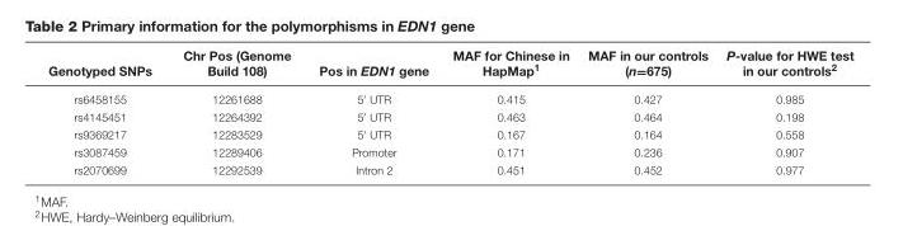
<table><thead><tr><td>Genotyped SNPs</td><td>Chr Pos (Genome Build 108)</td><td>Pos in EDN1 gene</td><td>MAF for Chinese in HapMap<sup>1</sup></td><td>MAF in our controls (n=675)</td><td>P-value for HWE test in our controls<sup>2</sup></td></tr></thead><tbody><tr><td>rs6458155</td><td>12261688</td><td>5′ UTR</td><td>0.415</td><td>0.427</td><td>0.985</td></tr><tr><td>rs4145451</td><td>12264392</td><td>5′ UTR</td><td>0.463</td><td>0.464</td><td>0.198</td></tr><tr><td>rs9369217</td><td>12283529</td><td>5′ UTR</td><td>0.167</td><td>0.164</td><td>0.558</td></tr><tr><td>rs3087459</td><td>12289406</td><td>Promoter</td><td>0.171</td><td>0.236</td><td>0.907</td></tr><tr><td>rs2070699</td><td>12292539</td><td>Intron 2</td><td>0.451</td><td>0.452</td><td>0.977</td></tr></tbody></table>